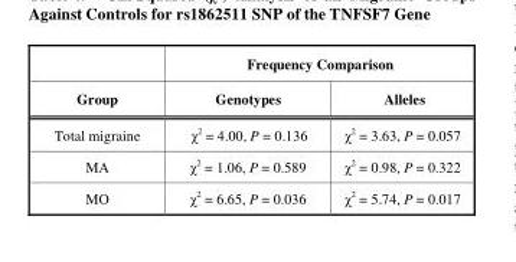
<table><thead><tr><td rowspan="2">Group</td><td colspan="2">Frequency Comparison</td></tr><tr><td>Genotypes</td><td>Alleles</td></tr></thead><tbody><tr><td>Total migraine</td><td>χ<sup>2</sup> = 4.00, P = 0.136</td><td>χ<sup>2</sup> = 3.63, P = 0.057</td></tr><tr><td>MA</td><td>χ<sup>2</sup> = 1.06, P = 0.589</td><td>χ<sup>2</sup> = 0.98, P = 0.322</td></tr><tr><td>MO</td><td>χ<sup>2</sup> = 6.65, P = 0.036</td><td>χ<sup>2</sup> = 5.74, P = 0.017</td></tr></tbody></table>